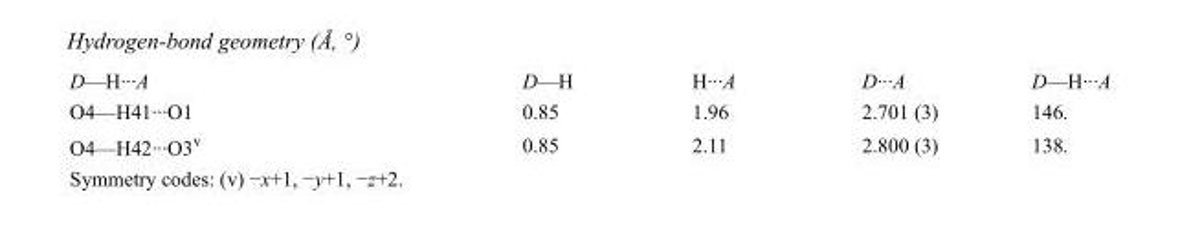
<table><tbody><tr><td>D—H···A</td><td>D—H</td><td>H···A</td><td>D···A</td><td>D—H···A</td></tr><tr><td>O4—H41···O1</td><td>0.85</td><td>1.96</td><td>2.701 (3)</td><td>146.</td></tr><tr><td>O4—H42···O3<sup>v</sup></td><td>0.85</td><td>2.11</td><td>2.800 (3)</td><td>138.</td></tr></tbody></table>